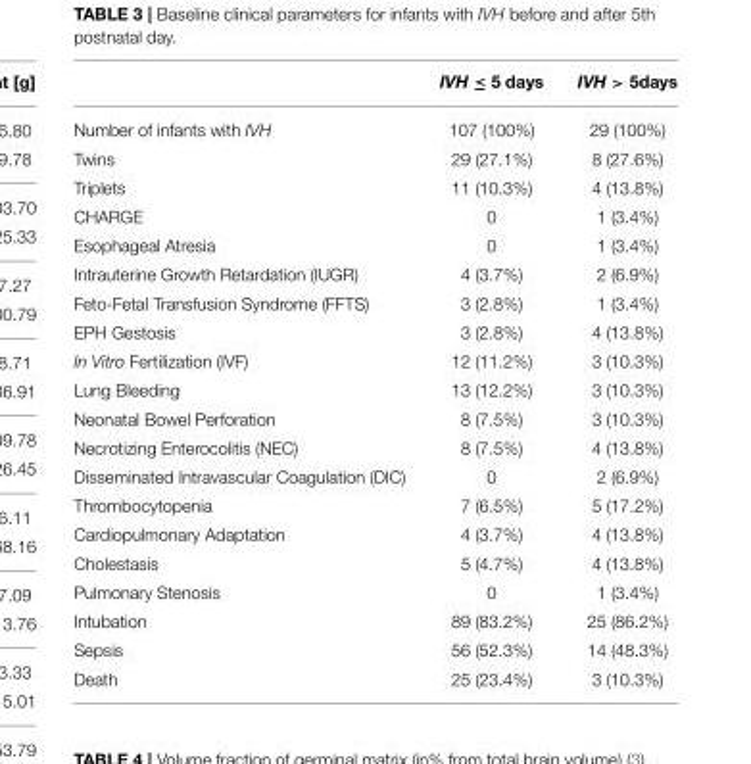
<table><thead><tr><td></td><td>IVH ≤ 5 days</td><td>IVH &gt; 5days</td></tr></thead><tbody><tr><td>Number of infants with IVH</td><td>107 (100%)</td><td>29 (100%)</td></tr><tr><td>Twins</td><td>29 (27.1%)</td><td>8 (27.6%)</td></tr><tr><td>Triplets</td><td>11 (10.3%)</td><td>4 (13.8%)</td></tr><tr><td>CHARGE</td><td>0</td><td>1 (3.4%)</td></tr><tr><td>Esophageal Atresia</td><td>0</td><td>1 (3.4%)</td></tr><tr><td>Intrauterine Growth Retardation (IUGR)</td><td>4 (3.7%)</td><td>2 (6.9%)</td></tr><tr><td>Feto-Fetal Transfusion Syndrome (FFTS)</td><td>3 (2.8%)</td><td>1 (3.4%)</td></tr><tr><td>EPH Gestosis</td><td>3 (2.8%)</td><td>4 (13.8%)</td></tr><tr><td>In Vitro Fertilization (IVF)</td><td>12 (11.2%)</td><td>3 (10.3%)</td></tr><tr><td>Lung Bleeding</td><td>13 (12.2%)</td><td>3 (10.3%)</td></tr><tr><td>Neonatal Bowel Perforation</td><td>8 (7.5%)</td><td>3 (10.3%)</td></tr><tr><td>Necrotizing Enterocolitis (NEC)</td><td>8 (7.5%)</td><td>4 (13.8%)</td></tr><tr><td>Disseminated Intravascular Coagulation (DIC)</td><td>0</td><td>2 (6.9%)</td></tr><tr><td>Thrombocytopenia</td><td>7 (6.5%)</td><td>5 (17.2%)</td></tr><tr><td>Cardiopulmonary Adaptation</td><td>4 (3.7%)</td><td>4 (13.8%)</td></tr><tr><td>Cholestasis</td><td>5 (4.7%)</td><td>4 (13.8%)</td></tr><tr><td>Pulmonary Stenosis</td><td>0</td><td>1 (3.4%)</td></tr><tr><td>Intubation</td><td>89 (83.2%)</td><td>25 (86.2%)</td></tr><tr><td>Sepsis</td><td>56 (52.3%)</td><td>14 (48.3%)</td></tr><tr><td>Death</td><td>25 (23.4%)</td><td>3 (10.3%)</td></tr></tbody></table>